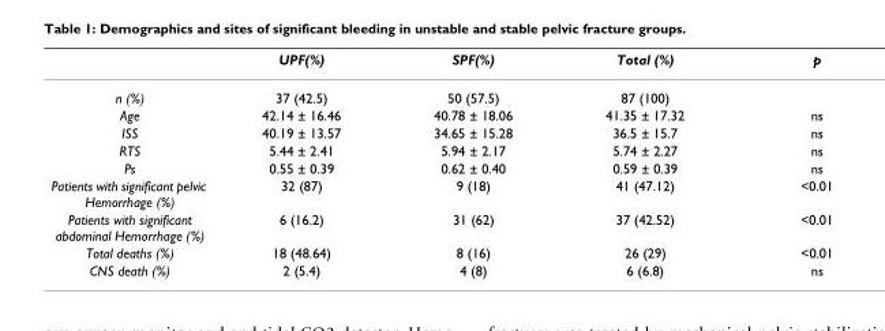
<table><thead><tr><td></td><td>UPF(%)</td><td>SPF(%)</td><td>Total (%)</td><td>p</td></tr></thead><tbody><tr><td>n (%)</td><td>37 (42.5)</td><td>50 (57.5)</td><td>87 (100)</td><td></td></tr><tr><td>Age</td><td>42.14 ± 16.46</td><td>40.78 ± 18.06</td><td>41.35 ± 17.32</td><td>ns</td></tr><tr><td>ISS</td><td>40.19 ± 13.57</td><td>34.65 ± 15.28</td><td>36.5 ± 15.7</td><td>ns</td></tr><tr><td>RTS</td><td>5.44 ± 2.41</td><td>5.94 ± 2.17</td><td>5.74 ± 2.27</td><td>ns</td></tr><tr><td>Ps</td><td>0.55 ± 0.39</td><td>0.62 ± 0.40</td><td>0.59 ± 0.39</td><td>ns</td></tr><tr><td>Patients with significant pelvic Hemorrhage (%)</td><td>32 (87)</td><td>9 (18)</td><td>41 (47.12)</td><td>&lt;0.01</td></tr><tr><td>Patients with significant abdominal Hemorrhage (%)</td><td>6 (16.2)</td><td>31 (62)</td><td>37 (42.52)</td><td>&lt;0.01</td></tr><tr><td>Total deaths (%)</td><td>18 (48.64)</td><td>8 (16)</td><td>26 (29)</td><td>&lt;0.01</td></tr><tr><td>CNS death (%)</td><td>2 (5.4)</td><td>4 (8)</td><td>6 (6.8)</td><td>ns</td></tr></tbody></table>